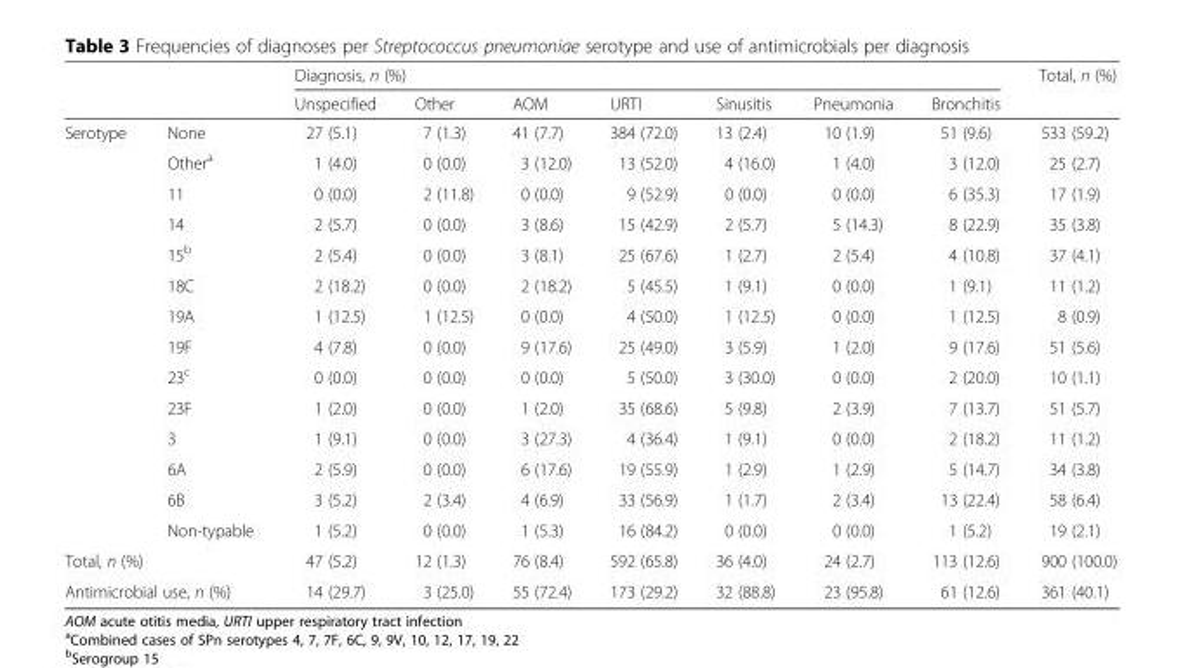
<table><thead><tr><td rowspan="2"></td><td rowspan="2"></td><td colspan="7">Diagnosis, n (%)</td><td rowspan="2">Total, n (%)</td></tr><tr><td>Unspecified</td><td>Other</td><td>AOM</td><td>URTI</td><td>Sinusitis</td><td>Pneumonia</td><td>Bronchitis</td></tr></thead><tbody><tr><td rowspan="14">Serotype</td><td>None</td><td>27 (5.1)</td><td>7 (1.3)</td><td>41 (7.7)</td><td>384 (72.0)</td><td>13 (2.4)</td><td>10 (1.9)</td><td>51 (9.6)</td><td>533 (59.2)</td></tr><tr><td>Other<sup>a</sup></td><td>1 (4.0)</td><td>0 (0.0)</td><td>3 (12.0)</td><td>13 (52.0)</td><td>4 (16.0)</td><td>1 (4.0)</td><td>3 (12.0)</td><td>25 (2.7)</td></tr><tr><td>11</td><td>0 (0.0)</td><td>2 (11.8)</td><td>0 (0.0)</td><td>9 (52.9)</td><td>0 (0.0)</td><td>0 (0.0)</td><td>6 (35.3)</td><td>17 (1.9)</td></tr><tr><td>14</td><td>2 (5.7)</td><td>0 (0.0)</td><td>3 (8.6)</td><td>15 (42.9)</td><td>2 (5.7)</td><td>5 (14.3)</td><td>8 (22.9)</td><td>35 (3.8)</td></tr><tr><td>15<sup>b</sup></td><td>2 (5.4)</td><td>0 (0.0)</td><td>3 (8.1)</td><td>25 (67.6)</td><td>1 (2.7)</td><td>2 (5.4)</td><td>4 (10.8)</td><td>37 (4.1)</td></tr><tr><td>18C</td><td>2 (18.2)</td><td>0 (0.0)</td><td>2 (18.2)</td><td>5 (45.5)</td><td>1 (9.1)</td><td>0 (0.0)</td><td>1 (9.1)</td><td>11 (1.2)</td></tr><tr><td>19A</td><td>1 (12.5)</td><td>1 (12.5)</td><td>0 (0.0)</td><td>4 (50.0)</td><td>1 (12.5)</td><td>0 (0.0)</td><td>1 (12.5)</td><td>8 (0.9)</td></tr><tr><td>19F</td><td>4 (7.8)</td><td>0 (0.0)</td><td>9 (17.6)</td><td>25 (49.0)</td><td>3 (5.9)</td><td>1 (2.0)</td><td>9 (17.6)</td><td>51 (5.6)</td></tr><tr><td>23<sup>c</sup></td><td>0 (0.0)</td><td>0 (0.0)</td><td>0 (0.0)</td><td>5 (50.0)</td><td>3 (30.0)</td><td>0 (0.0)</td><td>2 (20.0)</td><td>10 (1.1)</td></tr><tr><td>23F</td><td>1 (2.0)</td><td>0 (0.0)</td><td>1 (2.0)</td><td>35 (68.6)</td><td>5 (9.8)</td><td>2 (3.9)</td><td>7 (13.7)</td><td>51 (5.7)</td></tr><tr><td>3</td><td>1 (9.1)</td><td>0 (0.0)</td><td>3 (27.3)</td><td>4 (36.4)</td><td>1 (9.1)</td><td>0 (0.0)</td><td>2 (18.2)</td><td>11 (1.2)</td></tr><tr><td>6A</td><td>2 (5.9)</td><td>0 (0.0)</td><td>6 (17.6)</td><td>19 (55.9)</td><td>1 (2.9)</td><td>1 (2.9)</td><td>5 (14.7)</td><td>34 (3.8)</td></tr><tr><td>6B</td><td>3 (5.2)</td><td>2 (3.4)</td><td>4 (6.9)</td><td>33 (56.9)</td><td>1 (1.7)</td><td>2 (3.4)</td><td>13 (22.4)</td><td>58 (6.4)</td></tr><tr><td>Non-typable</td><td>1 (5.2)</td><td>0 (0.0)</td><td>1 (5.3)</td><td>16 (84.2)</td><td>0 (0.0)</td><td>0 (0.0)</td><td>1 (5.2)</td><td>19 (2.1)</td></tr><tr><td colspan="2">Total, n (%)</td><td>47 (5.2)</td><td>12 (1.3)</td><td>76 (8.4)</td><td>592 (65.8)</td><td>36 (4.0)</td><td>24 (2.7)</td><td>113 (12.6)</td><td>900 (100.0)</td></tr><tr><td colspan="2">Antimicrobial use, n (%)</td><td>14 (29.7)</td><td>3 (25.0)</td><td>55 (72.4)</td><td>173 (29.2)</td><td>32 (88.8)</td><td>23 (95.8)</td><td>61 (12.6)</td><td>361 (40.1)</td></tr></tbody></table>